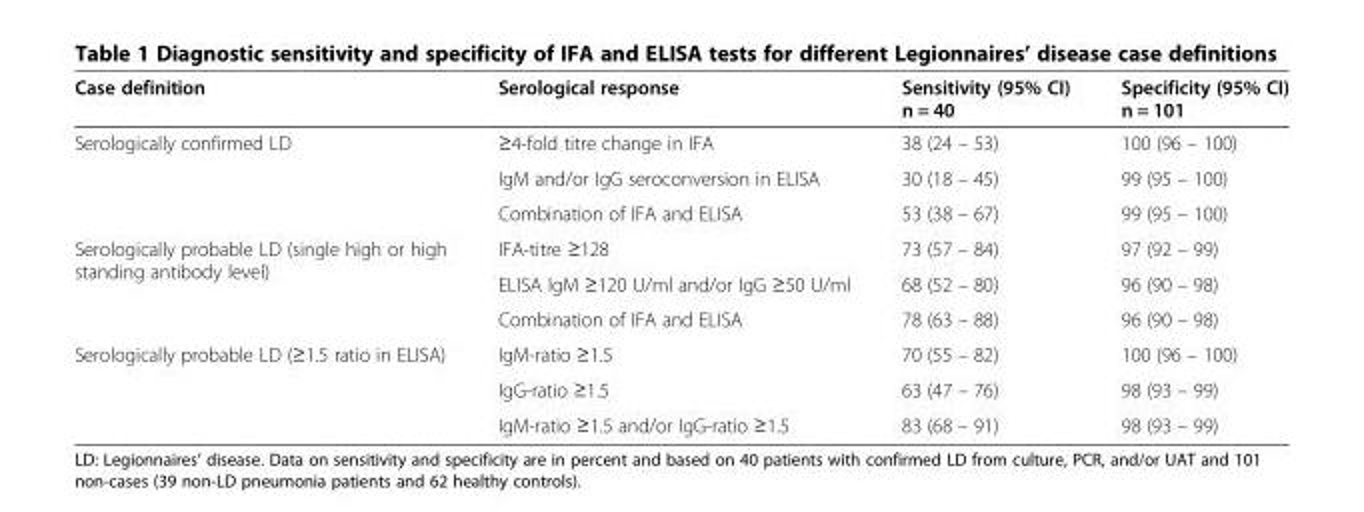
<table><thead><tr><td>Case definition</td><td>Serological response</td><td>Sensitivity (95% CI) n = 40</td><td>Specificity (95% CI) n = 101</td></tr></thead><tbody><tr><td rowspan="3">Serologically confirmed LD</td><td>≥4-fold titre change in IFA</td><td>38 (24 – 53)</td><td>100 (96 – 100)</td></tr><tr><td>IgM and/or IgG seroconversion in ELISA</td><td>30 (18 – 45)</td><td>99 (95 – 100)</td></tr><tr><td>Combination of IFA and ELISA</td><td>53 (38 – 67)</td><td>99 (95 – 100)</td></tr><tr><td rowspan="3">Serologically probable LD (single high or high standing antibody level)</td><td>IFA-titre ≥128</td><td>73 (57 – 84)</td><td>97 (92 – 99)</td></tr><tr><td>ELISA IgM ≥120 U/ml and/or IgG ≥50 U/ml</td><td>68 (52 – 80)</td><td>96 (90 – 98)</td></tr><tr><td>Combination of IFA and ELISA</td><td>78 (63 – 88)</td><td>96 (90 – 98)</td></tr><tr><td rowspan="3">Serologically probable LD (≥1.5 ratio in ELISA)</td><td>IgM-ratio ≥1.5</td><td>70 (55 – 82)</td><td>100 (96 – 100)</td></tr><tr><td>IgG-ratio ≥1.5</td><td>63 (47 – 76)</td><td>98 (93 – 99)</td></tr><tr><td>IgM-ratio ≥1.5 and/or IgG-ratio ≥1.5</td><td>83 (68 – 91)</td><td>98 (93 – 99)</td></tr></tbody></table>